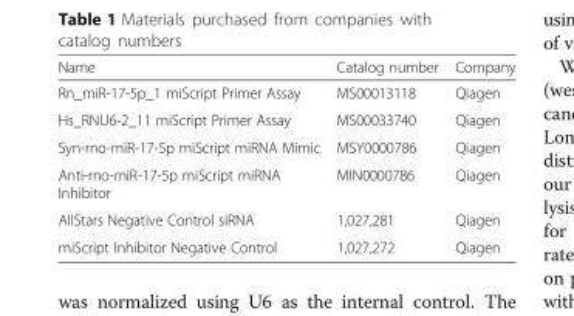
<table><thead><tr><td>Name</td><td>Catalog number</td><td>Company</td></tr></thead><tbody><tr><td>Rn_miR-17-5p_1 miScript Primer Assay</td><td>MS00013118</td><td>Qiagen</td></tr><tr><td>Hs_RNU6-2_11 miScript Primer Assay</td><td>MS00033740</td><td>Qiagen</td></tr><tr><td>Syn-rno-miR-17-5p miScript miRNA Mimic</td><td>MSY0000786</td><td>Qiagen</td></tr><tr><td>Anti-rno-miR-17-5p miScript miRNA Inhibitor</td><td>MIN0000786</td><td>Qiagen</td></tr><tr><td>AllStars Negative Control siRNA</td><td>1,027,281</td><td>Qiagen</td></tr><tr><td>miScript Inhibitor Negative Control</td><td>1,027,272</td><td>Qiagen</td></tr></tbody></table>